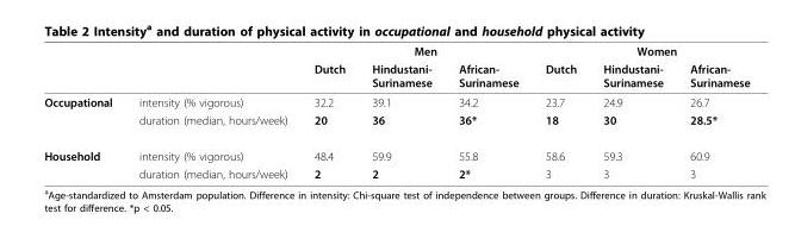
<table><thead><tr><td rowspan="2"></td><td rowspan="2"></td><td colspan="3">Men</td><td colspan="3">Women</td></tr><tr><td>Dutch</td><td>Hindustani- Surinamese</td><td>African- Surinamese</td><td>Dutch</td><td>Hindustani- Surinamese</td><td>African- Surinamese</td></tr></thead><tbody><tr><td rowspan="2">Occupational</td><td>intensity (% vigorous)</td><td>32.2</td><td>39.1</td><td>34.2</td><td>23.7</td><td>24.9</td><td>26.7</td></tr><tr><td>duration (median, hours/week)</td><td>20</td><td>36</td><td>36*</td><td>18</td><td>30</td><td>28.5*</td></tr><tr><td rowspan="2">Household</td><td>intensity (% vigorous)</td><td>48.4</td><td>59.9</td><td>55.8</td><td>58.6</td><td>59.3</td><td>60.9</td></tr><tr><td>duration (median, hours/week)</td><td>2</td><td>2</td><td>2*</td><td>3</td><td>3</td><td>3</td></tr></tbody></table>